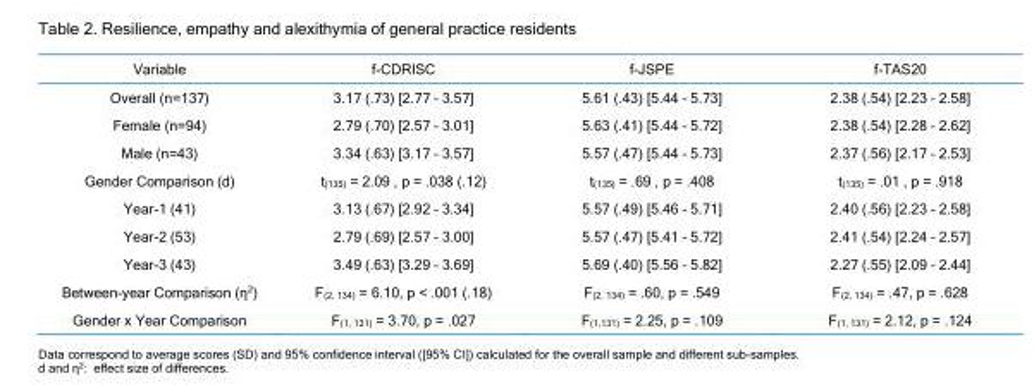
<table><thead><tr><td>Variable</td><td>f-CDRISC</td><td>f-JSPE</td><td>f-TAS20</td></tr></thead><tbody><tr><td>Overall (n=137)</td><td>3.17 (.73) [2.77 – 3.57]</td><td>5.61 (.43) [5.44 – 5.73]</td><td>2.38 (.54) [2.23 – 2.58]</td></tr><tr><td>Female (n=94)</td><td>2.79 (.70) [2.57 – 3.01]</td><td>5.63 (.41) [5.44 – 5.72]</td><td>2.38 (.54) [2.28 – 2.62]</td></tr><tr><td>Male (n=43)</td><td>3.34 (.63) [3.17 – 3.57]</td><td>5.57 (.47) [5.44 – 5.73]</td><td>2.37 (.56) [2.17 – 2.53]</td></tr><tr><td>Gender Comparison (d)</td><td>t<sub>(135)</sub> = 2.09 , p = .038 (.12)</td><td>t<sub>(135)</sub> = .69 , p = .408</td><td>t<sub>(135)</sub> = .01 , p = .918</td></tr><tr><td>Year-1 (41)</td><td>3.13 (.67) [2.92 – 3.34]</td><td>5.57 (.49) [5.46 – 5.71]</td><td>2.40 (.56) [2.23 – 2.58]</td></tr><tr><td>Year-2 (53)</td><td>2.79 (.69) [2.57 – 3.00]</td><td>5.57 (.47) [5.41 – 5.72]</td><td>2.41 (.54) [2.24 – 2.57]</td></tr><tr><td>Year-3 (43)</td><td>3.49 (.63) [3.29 – 3.69]</td><td>5.69 (.40) [5.56 – 5.82]</td><td>2.27 (.55) [2.09 – 2.44]</td></tr><tr><td>Between-year Comparison (η<sup>2</sup>)</td><td>F<sub>(2, 134)</sub> = 6.10, p &lt; .001 (.18)</td><td>F<sub>(2, 134)</sub> = .60, p = .549</td><td>F<sub>(2, 134)</sub> = .47, p = .628</td></tr><tr><td>Gender x Year Comparison</td><td>F<sub>(1, 131)</sub> = 3.70, p = .027</td><td>F<sub>(1,131)</sub> = 2.25, p = .109</td><td>F<sub>(1, 131)</sub> = 2.12, p = .124</td></tr></tbody></table>